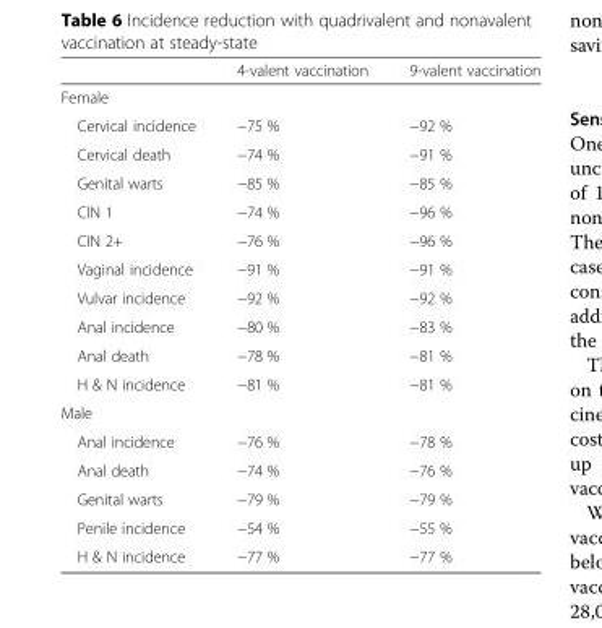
<table><thead><tr><td></td><td>4-valent vaccination</td><td>9-valent vaccination</td></tr></thead><tbody><tr><td colspan="3">Female</td></tr><tr><td>Cervical incidence</td><td>−75 %</td><td>−92 %</td></tr><tr><td>Cervical death</td><td>−74 %</td><td>−91 %</td></tr><tr><td>Genital warts</td><td>−85 %</td><td>−85 %</td></tr><tr><td>CIN 1</td><td>−74 %</td><td>−96 %</td></tr><tr><td>CIN 2+</td><td>−76 %</td><td>−96 %</td></tr><tr><td>Vaginal incidence</td><td>−91 %</td><td>−91 %</td></tr><tr><td>Vulvar incidence</td><td>−92 %</td><td>−92 %</td></tr><tr><td>Anal incidence</td><td>−80 %</td><td>−83 %</td></tr><tr><td>Anal death</td><td>−78 %</td><td>−81 %</td></tr><tr><td>H &amp; N incidence</td><td>−81 %</td><td>−81 %</td></tr><tr><td colspan="3">Male</td></tr><tr><td>Anal incidence</td><td>−76 %</td><td>−78 %</td></tr><tr><td>Anal death</td><td>−74 %</td><td>−76 %</td></tr><tr><td>Genital warts</td><td>−79 %</td><td>−79 %</td></tr><tr><td>Penile incidence</td><td>−54 %</td><td>−55 %</td></tr><tr><td>H &amp; N incidence</td><td>−77 %</td><td>−77 %</td></tr></tbody></table>